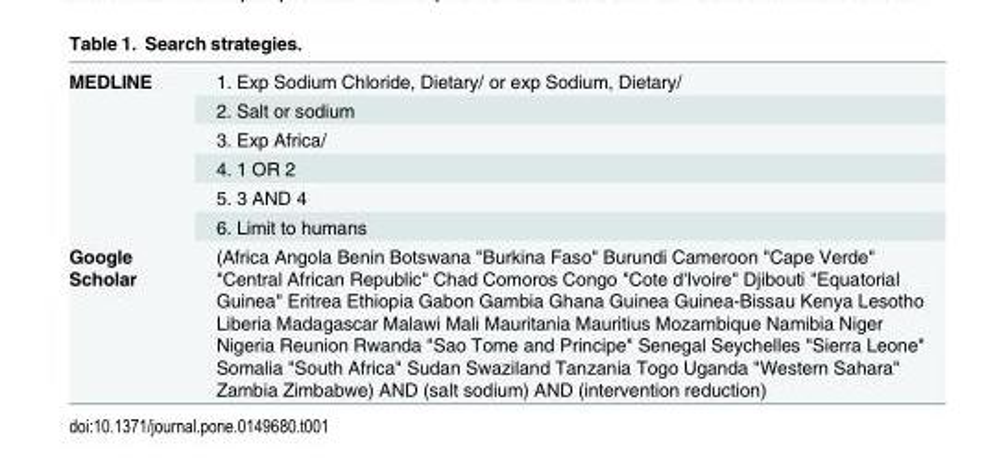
<table><tbody><tr><td rowspan="6">MEDLINE</td><td>1. Exp Sodium Chloride, Dietary/ or exp Sodium, Dietary/</td></tr><tr><td>2. Salt or sodium</td></tr><tr><td>3. Exp Africa/</td></tr><tr><td>4. 1 OR 2</td></tr><tr><td>5. 3 AND 4</td></tr><tr><td>6. Limit to humans</td></tr><tr><td>Google Scholar</td><td>(Africa Angola Benin Botswana &quot;Burkina Faso&quot; Burundi Cameroon &quot;Cape Verde&quot; &quot;Central African Republic&quot; Chad Comoros Congo &quot;Cote d&#x27;Ivoire&quot; Djibouti &quot;Equatorial Guinea&quot; Eritrea Ethiopia Gabon Gambia Ghana Guinea Guinea-Bissau Kenya Lesotho Liberia Madagascar Malawi Mali Mauritania Mauritius Mozambique Namibia Niger Nigeria Reunion Rwanda &quot;Sao Tome and Principe&quot; Senegal Seychelles &quot;Sierra Leone&quot; Somalia &quot;South Africa&quot; Sudan Swaziland Tanzania Togo Uganda &quot;Western Sahara&quot; Zambia Zimbabwe) AND (salt sodium) AND (intervention reduction)</td></tr></tbody></table>